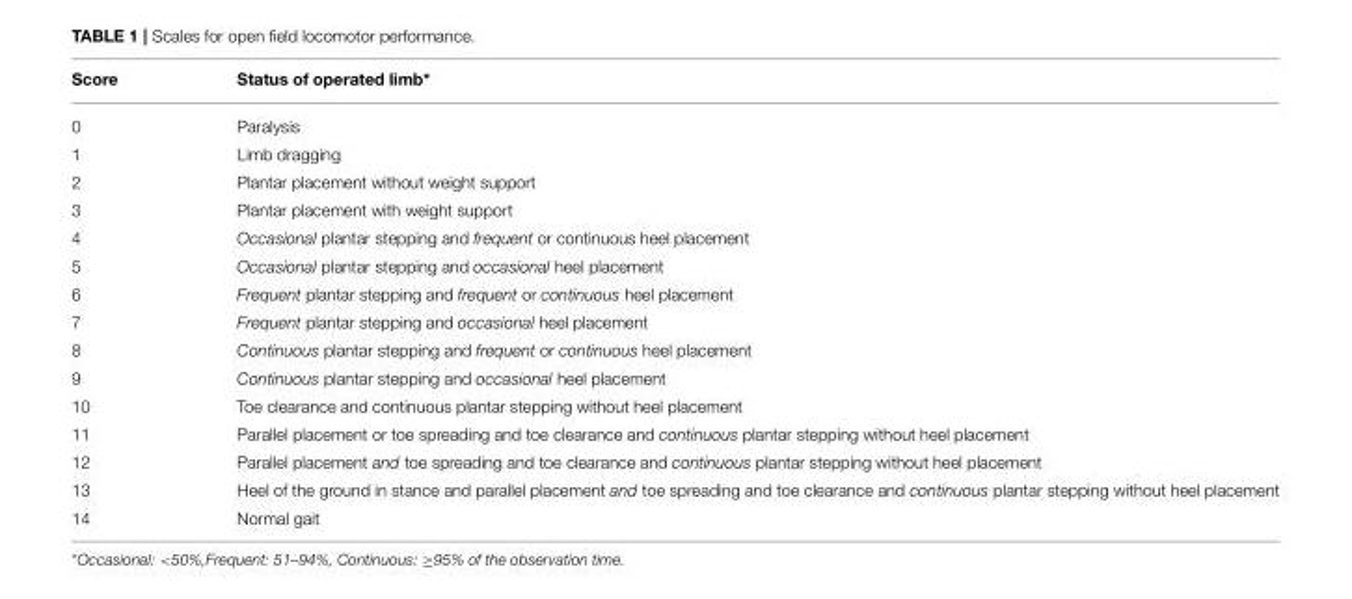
<table><thead><tr><td>Score</td><td>Status of operated limb*</td></tr></thead><tbody><tr><td>0</td><td>Paralysis</td></tr><tr><td>1</td><td>Limb dragging</td></tr><tr><td>2</td><td>Plantar placement without weight support</td></tr><tr><td>3</td><td>Plantar placement with weight support</td></tr><tr><td>4</td><td>Occasional plantar stepping and frequent or continuous heel placement</td></tr><tr><td>5</td><td>Occasional plantar stepping and occasional heel placement</td></tr><tr><td>6</td><td>Frequent plantar stepping and frequent or continuous heel placement</td></tr><tr><td>7</td><td>Frequent plantar stepping and occasional heel placement</td></tr><tr><td>8</td><td>Continuous plantar stepping and frequent or continuous heel placement</td></tr><tr><td>9</td><td>Continuous plantar stepping and occasional heel placement</td></tr><tr><td>10</td><td>Toe clearance and continuous plantar stepping without heel placement</td></tr><tr><td>11</td><td>Parallel placement or toe spreading and toe clearance and continuous plantar stepping without heel placement</td></tr><tr><td>12</td><td>Parallel placement and toe spreading and toe clearance and continuous plantar stepping without heel placement</td></tr><tr><td>13</td><td>Heel of the ground in stance and parallel placement and toe spreading and toe clearance and continuous plantar stepping without heel placement</td></tr><tr><td>14</td><td>Normal gait</td></tr></tbody></table>